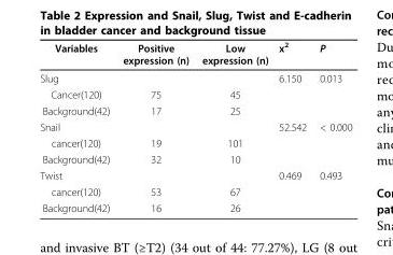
<table><thead><tr><td>Variables</td><td>Positive expression (n)</td><td>Low expression (n)</td><td>x<sup>2</sup></td><td>P</td></tr></thead><tbody><tr><td>Slug</td><td></td><td></td><td>6.150</td><td>0.013</td></tr><tr><td>Cancer(120)</td><td>75</td><td>45</td><td></td><td></td></tr><tr><td>Background(42)</td><td>17</td><td>25</td><td></td><td></td></tr><tr><td>Snail</td><td></td><td></td><td>52.542</td><td>&lt; 0.000</td></tr><tr><td>cancer(120)</td><td>19</td><td>101</td><td></td><td></td></tr><tr><td>Background(42)</td><td>32</td><td>10</td><td></td><td></td></tr><tr><td>Twist</td><td></td><td></td><td>0.469</td><td>0.493</td></tr><tr><td>cancer(120)</td><td>53</td><td>67</td><td></td><td></td></tr><tr><td>Background(42)</td><td>16</td><td>26</td><td></td><td></td></tr></tbody></table>